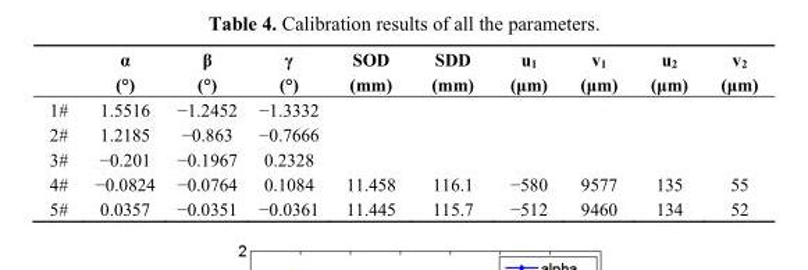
<table><thead><tr><td></td><td>α (°)</td><td>β (°)</td><td>γ (°)</td><td>SOD (mm)</td><td>SDD (mm)</td><td>u<sub>1</sub> (μm)</td><td>v<sub>1</sub> (μm)</td><td>u<sub>2</sub> (μm)</td><td>v<sub>2</sub> (μm)</td></tr></thead><tbody><tr><td>1#</td><td>1.5516</td><td>−1.2452</td><td>−1.3332</td><td></td><td></td><td></td><td></td><td></td><td></td></tr><tr><td>2#</td><td>1.2185</td><td>−0.863</td><td>−0.7666</td><td></td><td></td><td></td><td></td><td></td><td></td></tr><tr><td>3#</td><td>−0.201</td><td>−0.1967</td><td>0.2328</td><td></td><td></td><td></td><td></td><td></td><td></td></tr><tr><td>4#</td><td>−0.0824</td><td>−0.0764</td><td>0.1084</td><td>11.458</td><td>116.1</td><td>−580</td><td>9577</td><td>135</td><td>55</td></tr><tr><td>5#</td><td>0.0357</td><td>−0.0351</td><td>−0.0361</td><td>11.445</td><td>115.7</td><td>−512</td><td>9460</td><td>134</td><td>52</td></tr></tbody></table>